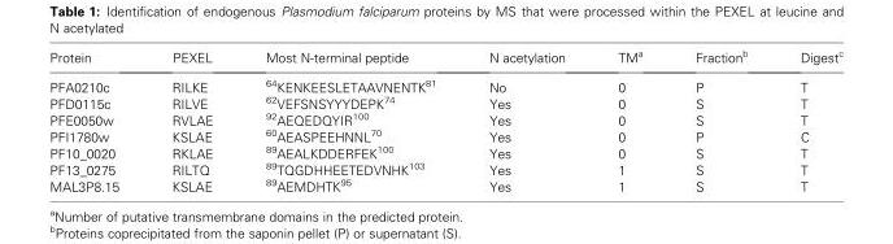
<table><thead><tr><td>Protein</td><td>PEXEL</td><td>Most N-terminal peptide</td><td>N acetylation</td><td>TM<sup>a</sup></td><td>Fraction<sup>b</sup></td><td>Digest<sup>c</sup></td></tr></thead><tbody><tr><td>PFA0210c</td><td>RILKE</td><td><sup>64</sup>KENKEESLETAAVNENTK<sup>81</sup></td><td>No</td><td>0</td><td>P</td><td>T</td></tr><tr><td>PFD0115c</td><td>RILVE</td><td><sup>62</sup>VEFSNSYYYDEPK<sup>74</sup></td><td>Yes</td><td>0</td><td>S</td><td>T</td></tr><tr><td>PFE0050w</td><td>RVLAE</td><td><sup>92</sup>AEQEDQYIR<sup>100</sup></td><td>Yes</td><td>0</td><td>S</td><td>T</td></tr><tr><td>PFI1780w</td><td>KSLAE</td><td><sup>60</sup>AEASPEEHNNL<sup>70</sup></td><td>Yes</td><td>0</td><td>P</td><td>C</td></tr><tr><td>PF10_0020</td><td>RKLAE</td><td><sup>89</sup>AEALKDDERFEK<sup>100</sup></td><td>Yes</td><td>0</td><td>S</td><td>T</td></tr><tr><td>PF13_0275</td><td>RILTQ</td><td><sup>89</sup>TQGDHHEETEDVNHK<sup>103</sup></td><td>Yes</td><td>1</td><td>S</td><td>T</td></tr><tr><td>MAL3P8.15</td><td>KSLAE</td><td><sup>89</sup>AEMDHTK<sup>95</sup></td><td>Yes</td><td>1</td><td>S</td><td>T</td></tr></tbody></table>